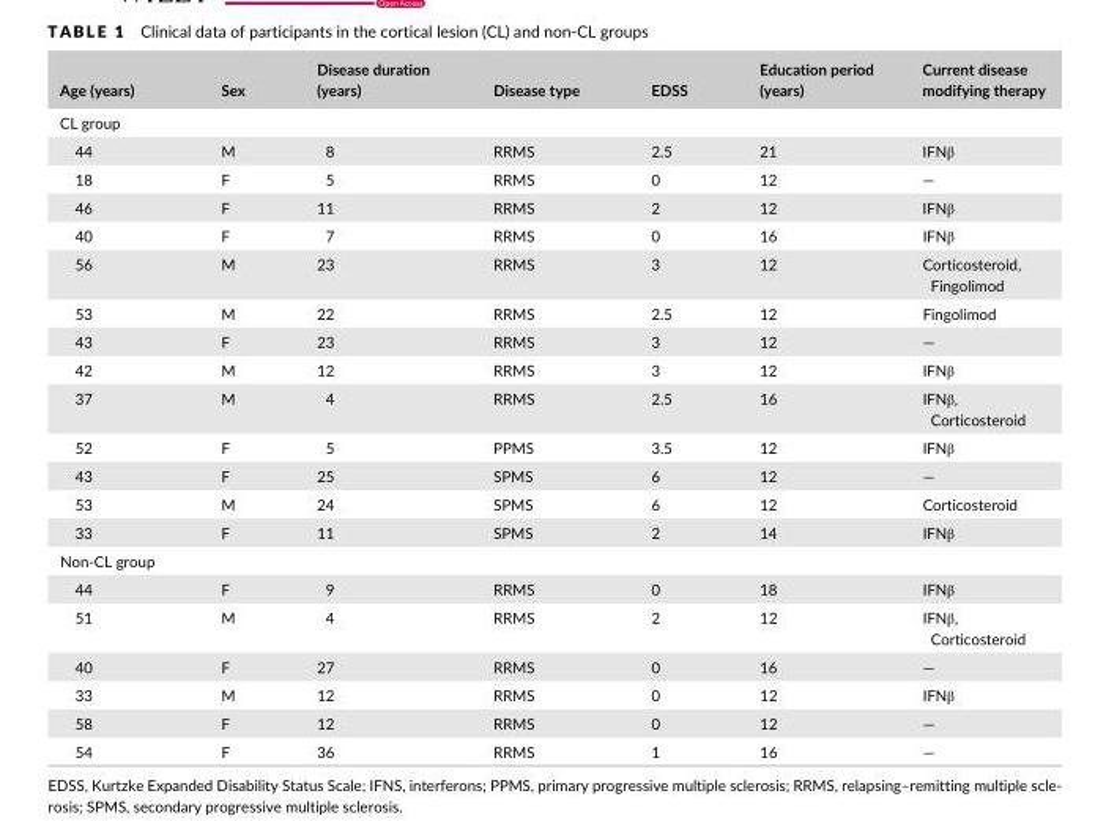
<table><thead><tr><td>Age (years)</td><td>Sex</td><td>Disease duration (years)</td><td>Disease type</td><td>EDSS</td><td>Education period (years)</td><td>Current disease modifying therapy</td></tr></thead><tbody><tr><td colspan="7">CL group</td></tr><tr><td>44</td><td>M</td><td>8</td><td>RRMS</td><td>2.5</td><td>21</td><td>IFNβ</td></tr><tr><td>18</td><td>F</td><td>5</td><td>RRMS</td><td>0</td><td>12</td><td>—</td></tr><tr><td>46</td><td>F</td><td>11</td><td>RRMS</td><td>2</td><td>12</td><td>IFNβ</td></tr><tr><td>40</td><td>F</td><td>7</td><td>RRMS</td><td>0</td><td>16</td><td>IFNβ</td></tr><tr><td>56</td><td>M</td><td>23</td><td>RRMS</td><td>3</td><td>12</td><td>Corticosteroid, Fingolimod</td></tr><tr><td>53</td><td>M</td><td>22</td><td>RRMS</td><td>2.5</td><td>12</td><td>Fingolimod</td></tr><tr><td>43</td><td>F</td><td>23</td><td>RRMS</td><td>3</td><td>12</td><td>—</td></tr><tr><td>42</td><td>M</td><td>12</td><td>RRMS</td><td>3</td><td>12</td><td>IFNβ</td></tr><tr><td>37</td><td>M</td><td>4</td><td>RRMS</td><td>2.5</td><td>16</td><td>IFNβ, Corticosteroid</td></tr><tr><td>52</td><td>F</td><td>5</td><td>PPMS</td><td>3.5</td><td>12</td><td>IFNβ</td></tr><tr><td>43</td><td>F</td><td>25</td><td>SPMS</td><td>6</td><td>12</td><td>—</td></tr><tr><td>53</td><td>M</td><td>24</td><td>SPMS</td><td>6</td><td>12</td><td>Corticosteroid</td></tr><tr><td>33</td><td>F</td><td>11</td><td>SPMS</td><td>2</td><td>14</td><td>IFNβ</td></tr><tr><td colspan="7">Non- CL group</td></tr><tr><td>44</td><td>F</td><td>9</td><td>RRMS</td><td>0</td><td>18</td><td>IFNβ</td></tr><tr><td>51</td><td>M</td><td>4</td><td>RRMS</td><td>2</td><td>12</td><td>IFNβ, Corticosteroid</td></tr><tr><td>40</td><td>F</td><td>27</td><td>RRMS</td><td>0</td><td>16</td><td>—</td></tr><tr><td>33</td><td>M</td><td>12</td><td>RRMS</td><td>0</td><td>12</td><td>IFNβ</td></tr><tr><td>58</td><td>F</td><td>12</td><td>RRMS</td><td>0</td><td>12</td><td>—</td></tr><tr><td>54</td><td>F</td><td>36</td><td>RRMS</td><td>1</td><td>16</td><td>—</td></tr></tbody></table>